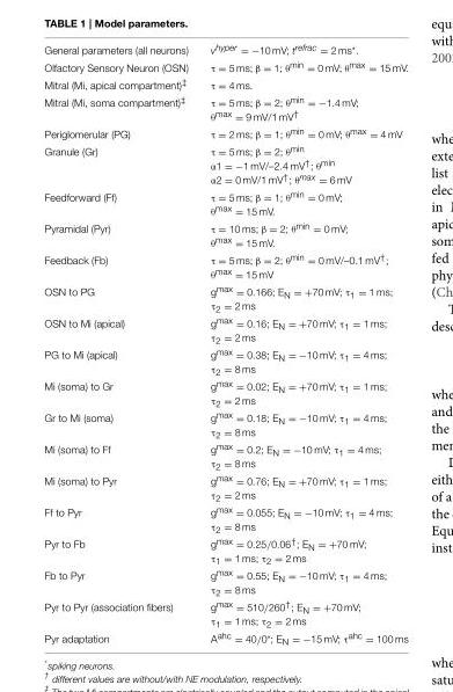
<table><tbody><tr><td>General parameters (all neurons)</td><td>v<sup>hyper</sup> = −10 mV; t<sup>refrac</sup> = 2 ms*.</td></tr><tr><td>Olfactory Sensory Neuron (OSN)</td><td>τ = 5 ms; β = 1; θ<sup>min</sup> = 0 mV; θ<sup>max</sup> = 15 mV.</td></tr><tr><td>Mitral (Mi, apical compartment)<sup>‡</sup></td><td>τ = 4 ms.</td></tr><tr><td>Mitral (Mi, soma compartment)<sup>‡</sup></td><td>τ = 5 ms; β = 2; θ<sup>min</sup> = −1.4 mV; θ<sup>max</sup> = 9 mV/1 mV<sup>†</sup></td></tr><tr><td>Periglomerular (PG)</td><td>τ = 2 ms; β = 1; θ<sup>min</sup> = 0 mV; θ<sup>max</sup> = 4 mV</td></tr><tr><td>Granule (Gr)</td><td>τ = 5 ms; β = 2; θ<sup>min</sup> α1 = −1 mV/–2.4 mV<sup>†</sup>; θ<sup>min</sup> α2 = 0 mV/1 mV<sup>†</sup>; θ<sup>max</sup> = 6 mV</td></tr><tr><td>Feedforward (Ff)</td><td>τ = 5 ms; β = 1; θ<sup>min</sup> = 0 mV; θ<sup>max</sup> = 15 mV.</td></tr><tr><td>Pyramidal (Pyr)</td><td>τ = 10 ms; β = 2; θ<sup>min</sup> = 0 mV; θ<sup>max</sup> = 15 mV.</td></tr><tr><td>Feedback (Fb)</td><td>τ = 5 ms; β = 2; θ<sup>min</sup> = 0 mV/–0.1 mV<sup>†</sup>; θ<sup>max</sup> = 15 mV</td></tr><tr><td>OSN to PG</td><td>g<sup>max</sup> = 0.166; E<sub>N</sub> = +70 mV; τ<sub>1</sub> = 1 ms; τ<sub>2</sub> = 2 ms</td></tr><tr><td>OSN to Mi (apical)</td><td>g<sup>max</sup> = 0.16; E<sub>N</sub> = +70 mV; τ<sub>1</sub> = 1 ms; τ<sub>2</sub> = 2 ms</td></tr><tr><td>PG to Mi (apical)</td><td>g<sup>max</sup> = 0.38; E<sub>N</sub> = −10 mV; τ<sub>1</sub> = 4 ms; τ<sub>2</sub> = 8 ms</td></tr><tr><td>Mi (soma) to Gr</td><td>g<sup>max</sup> = 0.02; E<sub>N</sub> = +70 mV; τ<sub>1</sub> = 1 ms; τ<sub>2</sub> = 2 ms</td></tr><tr><td>Gr to Mi (soma)</td><td>g<sup>max</sup> = 0.18; E<sub>N</sub> = −10 mV; τ<sub>1</sub> = 4 ms; τ<sub>2</sub> = 8 ms</td></tr><tr><td>Mi (soma) to Ff</td><td>g<sup>max</sup> = 0.2; E<sub>N</sub> = −10 mV; τ<sub>1</sub> = 4 ms; τ<sub>2</sub> = 8 ms</td></tr><tr><td>Mi (soma) to Pyr</td><td>g<sup>max</sup> = 0.76; E<sub>N</sub> = +70 mV; τ<sub>1</sub> = 1 ms; τ<sub>2</sub> = 2 ms</td></tr><tr><td>Ff to Pyr</td><td>g<sup>max</sup> = 0.055; E<sub>N</sub> = −10 mV; τ<sub>1</sub> = 4 ms; τ<sub>2</sub> = 8 ms</td></tr><tr><td>Pyr to Fb</td><td>g<sup>max</sup> = 0.25/0.06<sup>†</sup>; E<sub>N</sub> = +70 mV; τ<sub>1</sub> = 1 ms; τ<sub>2</sub> = 2 ms</td></tr><tr><td>Fb to Pyr</td><td>g<sup>max</sup> = 0.55; E<sub>N</sub> = −10 mV; τ<sub>1</sub> = 4 ms; τ<sub>2</sub> = 8 ms</td></tr><tr><td>Pyr to Pyr (association fibers)</td><td>g<sup>max</sup> = 510/260<sup>†</sup>; E<sub>N</sub> = +70 mV; τ<sub>1</sub> = 1 ms; τ<sub>2</sub> = 2 ms</td></tr><tr><td>Pyr adaptation</td><td>A<sup>ahc</sup> = 40/0*; E<sub>N</sub> = −15 mV; τ<sup>ahc</sup> = 100 ms</td></tr></tbody></table>